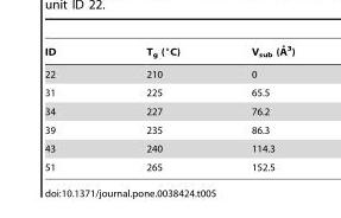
<table><thead><tr><td>ID</td><td>T<sub>g</sub> (°C)</td><td>Vsub (A˚ 3)</td></tr></thead><tbody><tr><td>22</td><td>210</td><td>0</td></tr><tr><td>31</td><td>225</td><td>65.5</td></tr><tr><td>34</td><td>227</td><td>76.2</td></tr><tr><td>39</td><td>235</td><td>86.3</td></tr><tr><td>43</td><td>240</td><td>114.3</td></tr><tr><td>51</td><td>265</td><td>152.5</td></tr></tbody></table>